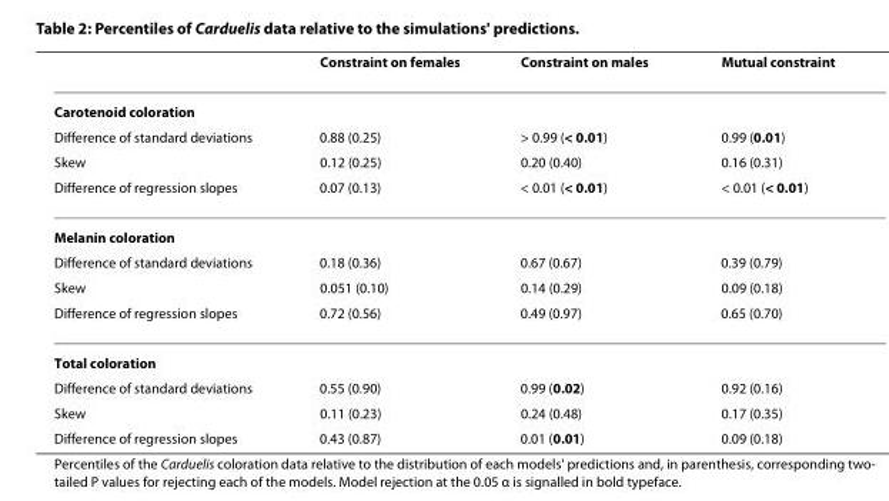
<table><thead><tr><td></td><td>Constraint on females</td><td>Constraint on males</td><td>Mutual constraint</td></tr></thead><tbody><tr><td colspan="4">Carotenoid coloration</td></tr><tr><td>Difference of standard deviations</td><td>0.88 (0.25)</td><td>&gt; 0.99 (&lt; 0.01)</td><td>0.99 (0.01)</td></tr><tr><td>Skew</td><td>0.12 (0.25)</td><td>0.20 (0.40)</td><td>0.16 (0.31)</td></tr><tr><td>Difference of regression slopes</td><td>0.07 (0.13)</td><td>&lt; 0.01 (&lt; 0.01)</td><td>&lt; 0.01 (&lt; 0.01)</td></tr><tr><td colspan="4">Melanin coloration</td></tr><tr><td>Difference of standard deviations</td><td>0.18 (0.36)</td><td>0.67 (0.67)</td><td>0.39 (0.79)</td></tr><tr><td>Skew</td><td>0.051 (0.10)</td><td>0.14 (0.29)</td><td>0.09 (0.18)</td></tr><tr><td>Difference of regression slopes</td><td>0.72 (0.56)</td><td>0.49 (0.97)</td><td>0.65 (0.70)</td></tr><tr><td colspan="4">Total coloration</td></tr><tr><td>Difference of standard deviations</td><td>0.55 (0.90)</td><td>0.99 (0.02)</td><td>0.92 (0.16)</td></tr><tr><td>Skew</td><td>0.11 (0.23)</td><td>0.24 (0.48)</td><td>0.17 (0.35)</td></tr><tr><td>Difference of regression slopes</td><td>0.43 (0.87)</td><td>0.01 (0.01)</td><td>0.09 (0.18)</td></tr></tbody></table>